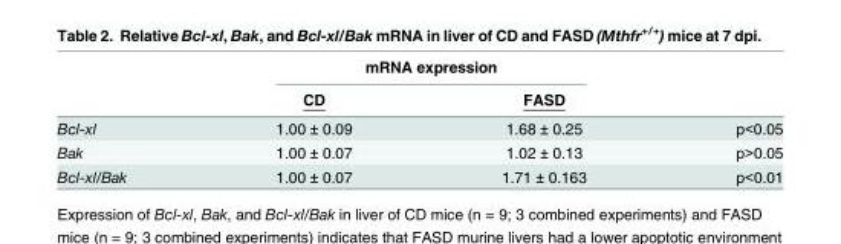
<table><thead><tr><td rowspan="2"></td><td colspan="2">mRNA expression</td><td rowspan="2"></td></tr><tr><td>CD</td><td>FASD</td></tr></thead><tbody><tr><td>Bcl-xl</td><td>1.00 ± 0.09</td><td>1.68 ± 0.25</td><td>p&lt;0.05</td></tr><tr><td>Bak</td><td>1.00 ± 0.07</td><td>1.02 ± 0.13</td><td>p&gt;0.05</td></tr><tr><td>Bcl-xl/Bak</td><td>1.00 ± 0.07</td><td>1.71 ± 0.163</td><td>p&lt;0.01</td></tr></tbody></table>